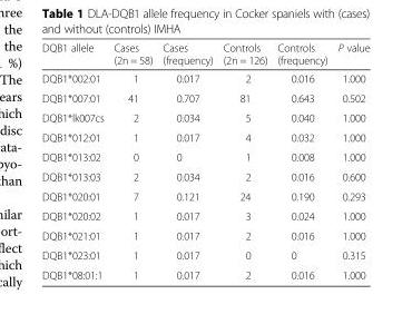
<table><thead><tr><td>DQB1 allele</td><td>Cases (2n = 58)</td><td>Cases (frequency)</td><td>Controls (2n = 126)</td><td>Controls (frequency)</td><td>P value</td></tr></thead><tbody><tr><td>DQB1*002:01</td><td>1</td><td>0.017</td><td>2</td><td>0.016</td><td>1.000</td></tr><tr><td>DQB1*007:01</td><td>41</td><td>0.707</td><td>81</td><td>0.643</td><td>0.502</td></tr><tr><td>DQB1*lk007cs</td><td>2</td><td>0.034</td><td>5</td><td>0.040</td><td>1.000</td></tr><tr><td>DQB1*012:01</td><td>1</td><td>0.017</td><td>4</td><td>0.032</td><td>1.000</td></tr><tr><td>DQB1*013:02</td><td>0</td><td>0</td><td>1</td><td>0.008</td><td>1.000</td></tr><tr><td>DQB1*013:03</td><td>2</td><td>0.034</td><td>2</td><td>0.016</td><td>0.600</td></tr><tr><td>DQB1*020:01</td><td>7</td><td>0.121</td><td>24</td><td>0.190</td><td>0.293</td></tr><tr><td>DQB1*020:02</td><td>1</td><td>0.017</td><td>3</td><td>0.024</td><td>1.000</td></tr><tr><td>DQB1*021:01</td><td>1</td><td>0.017</td><td>2</td><td>0.016</td><td>1.000</td></tr><tr><td>DQB1*023:01</td><td>1</td><td>0.017</td><td>0</td><td>0</td><td>0.315</td></tr><tr><td>DQB1*08:01:1</td><td>1</td><td>0.017</td><td>2</td><td>0.016</td><td>1.000</td></tr></tbody></table>